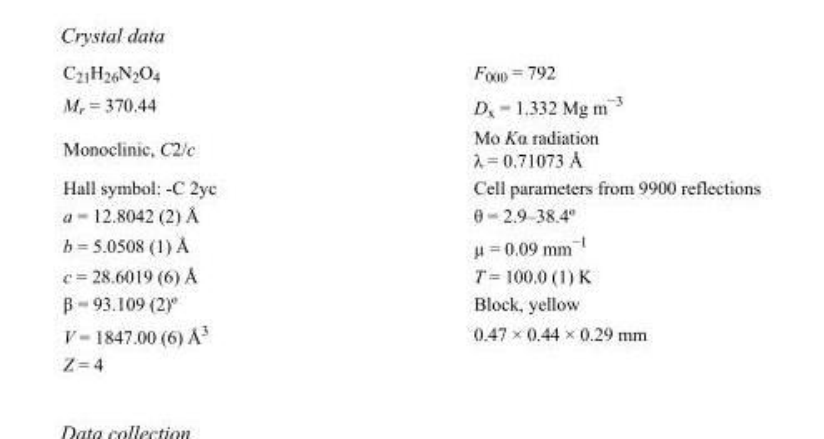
<table><tbody><tr><td>C<sub>21</sub>H<sub>26</sub>N<sub>2</sub>O<sub>4</sub></td><td>F<sub>000</sub> = 792</td></tr><tr><td>M<sub>r</sub> = 370.44</td><td>D<sub>x</sub> = 1.332 Mg m<sup>−3</sup></td></tr><tr><td>Monoclinic, C2/c</td><td>Mo Kα radiation λ = 0.71073 Å</td></tr><tr><td>Hall symbol: -C 2yc</td><td>Cell parameters from 9900 reflections</td></tr><tr><td>a = 12.8042 (2) Å</td><td>θ = 2.9–38.4º</td></tr><tr><td>b = 5.0508 (1) Å</td><td>µ = 0.09 mm<sup>−1</sup></td></tr><tr><td>c = 28.6019 (6) Å</td><td>T = 100.0 (1) K</td></tr><tr><td>β = 93.109 (2)º</td><td>Block, yellow</td></tr><tr><td>V = 1847.00 (6) Å<sup>3</sup></td><td>0.47 × 0.44 × 0.29 mm</td></tr><tr><td>Z = 4</td><td></td></tr></tbody></table>